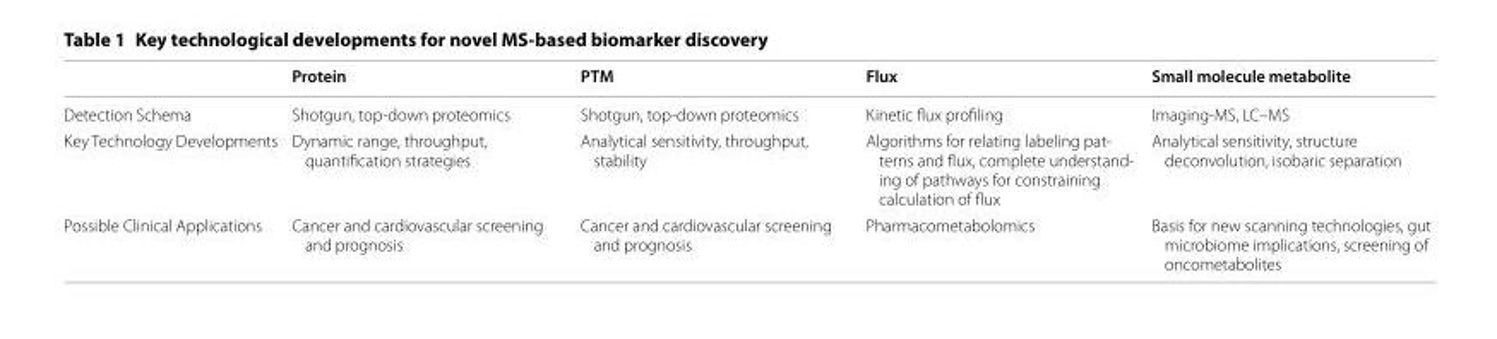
<table><thead><tr><td></td><td>Protein</td><td>PTM</td><td>Flux</td><td>Small molecule metabolite</td></tr></thead><tbody><tr><td>Detection Schema</td><td>Shotgun, top-down proteomics</td><td>Shotgun, top-down proteomics</td><td>Kinetic flux profiling</td><td>Imaging-MS, LC–MS</td></tr><tr><td>Key Technology Developments</td><td>Dynamic range, throughput, quantification strategies</td><td>Analytical sensitivity, throughput, stability</td><td>Algorithms for relating labeling pat- terns and flux, complete understand- ing of pathways for constraining calculation of flux</td><td>Analytical sensitivity, structure deconvolution, isobaric separation</td></tr><tr><td>Possible Clinical Applications</td><td>Cancer and cardiovascular screening and prognosis</td><td>Cancer and cardiovascular screening and prognosis</td><td>Pharmacometabolomics</td><td>Basis for new scanning technologies, gut microbiome implications, screening of oncometabolites</td></tr></tbody></table>